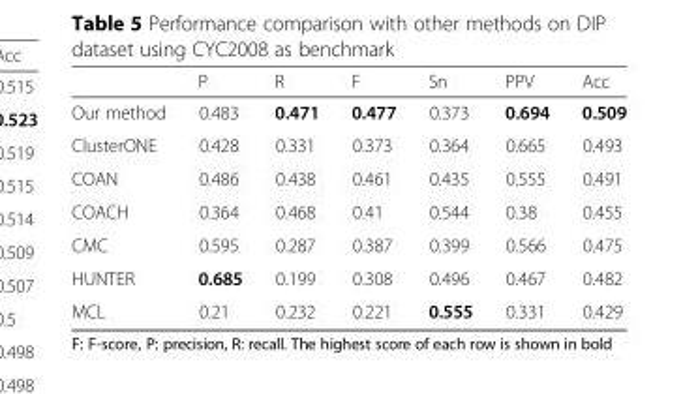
<table><thead><tr><td></td><td>P</td><td>R</td><td>F</td><td>Sn</td><td>PPV</td><td>Acc</td></tr></thead><tbody><tr><td>Our method</td><td>0.483</td><td>0.471</td><td>0.477</td><td>0.373</td><td>0.694</td><td>0.509</td></tr><tr><td>ClusterONE</td><td>0.428</td><td>0.331</td><td>0.373</td><td>0.364</td><td>0.665</td><td>0.493</td></tr><tr><td>COAN</td><td>0.486</td><td>0.438</td><td>0.461</td><td>0.435</td><td>0.555</td><td>0.491</td></tr><tr><td>COACH</td><td>0.364</td><td>0.468</td><td>0.41</td><td>0.544</td><td>0.38</td><td>0.455</td></tr><tr><td>CMC</td><td>0.595</td><td>0.287</td><td>0.387</td><td>0.399</td><td>0.566</td><td>0.475</td></tr><tr><td>HUNTER</td><td>0.685</td><td>0.199</td><td>0.308</td><td>0.496</td><td>0.467</td><td>0.482</td></tr><tr><td>MCL</td><td>0.21</td><td>0.232</td><td>0.221</td><td>0.555</td><td>0.331</td><td>0.429</td></tr></tbody></table>